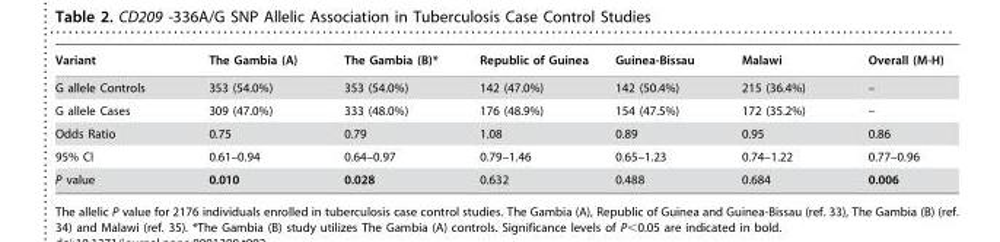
<table><thead><tr><td>Variant</td><td>The Gambia (A)</td><td>The Gambia (B)*</td><td>Republic of Guinea</td><td>Guinea-Bissau</td><td>Malawi</td><td>Overall (M-H)</td></tr></thead><tbody><tr><td>G allele Controls</td><td>353 (54.0%)</td><td>353 (54.0%)</td><td>142 (47.0%)</td><td>142 (50.4%)</td><td>215 (36.4%)</td><td>–</td></tr><tr><td>G allele Cases</td><td>309 (47.0%)</td><td>333 (48.0%)</td><td>176 (48.9%)</td><td>154 (47.5%)</td><td>172 (35.2%)</td><td>–</td></tr><tr><td>Odds Ratio</td><td>0.75</td><td>0.79</td><td>1.08</td><td>0.89</td><td>0.95</td><td>0.86</td></tr><tr><td>95% CI</td><td>0.61–0.94</td><td>0.64–0.97</td><td>0.79–1.46</td><td>0.65–1.23</td><td>0.74–1.22</td><td>0.77–0.96</td></tr><tr><td>P value</td><td>0.010</td><td>0.028</td><td>0.632</td><td>0.488</td><td>0.684</td><td>0.006</td></tr></tbody></table>